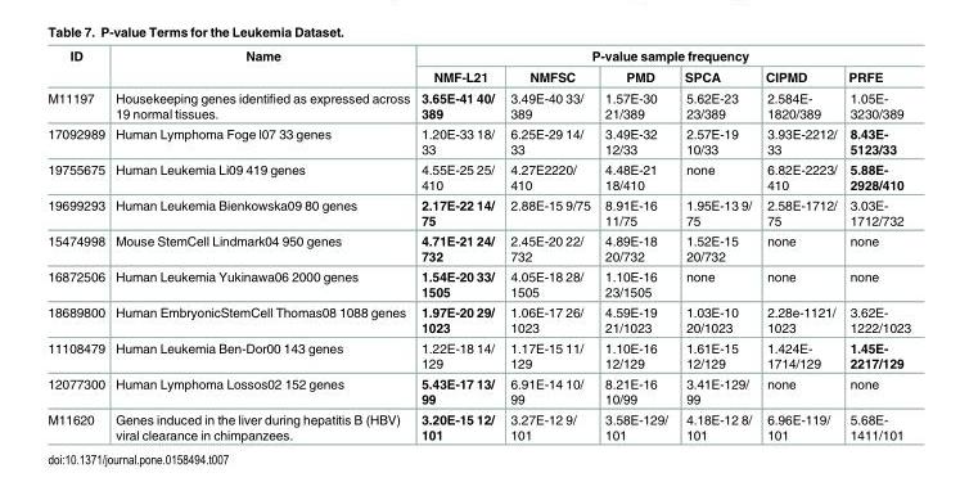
<table><thead><tr><td rowspan="2">ID</td><td rowspan="2">Name</td><td colspan="6">P-value sample frequency</td></tr><tr><td>NMF-L21</td><td>NMFSC</td><td>PMD</td><td>SPCA</td><td>CIPMD</td><td>PRFE</td></tr></thead><tbody><tr><td>M11197</td><td>Housekeeping genes identified as expressed across 19 normal tissues.</td><td>3.65E-41 40/ 389</td><td>3.49E-40 33/ 389</td><td>1.57E-30 21/389</td><td>5.62E-23 23/389</td><td>2.584E- 1820/389</td><td>1.05E- 3230/389</td></tr><tr><td>17092989</td><td>Human Lymphoma Foge l07 33 genes</td><td>1.20E-33 18/ 33</td><td>6.25E-29 14/ 33</td><td>3.49E-32 12/33</td><td>2.57E-19 10/33</td><td>3.93E-2212/ 33</td><td>8.43E- 5123/33</td></tr><tr><td>19755675</td><td>Human Leukemia Li09 419 genes</td><td>4.55E-25 25/ 410</td><td>4.27E2220/ 410</td><td>4.48E-21 18/410</td><td>none</td><td>6.82E-2223/ 410</td><td>5.88E- 2928/410</td></tr><tr><td>19699293</td><td>Human Leukemia Bienkowska09 80 genes</td><td>2.17E-22 14/ 75</td><td>2.88E-15 9/75</td><td>8.91E-16 11/75</td><td>1.95E-13 9/ 75</td><td>2.58E-1712/ 75</td><td>3.03E- 1712/732</td></tr><tr><td>15474998</td><td>Mouse StemCell Lindmark04 950 genes</td><td>4.71E-21 24/ 732</td><td>2.45E-20 22/ 732</td><td>4.89E-18 20/732</td><td>1.52E-15 20/732</td><td>none</td><td>none</td></tr><tr><td>16872506</td><td>Human Leukemia Yukinawa06 2000 genes</td><td>1.54E-20 33/ 1505</td><td>4.05E-18 28/ 1505</td><td>1.10E-16 23/1505</td><td>none</td><td>none</td><td>none</td></tr><tr><td>18689800</td><td>Human EmbryonicStemCell Thomas08 1088 genes</td><td>1.97E-20 29/ 1023</td><td>1.06E-17 26/ 1023</td><td>4.59E-19 21/1023</td><td>1.03E-10 20/1023</td><td>2.28e-1121/ 1023</td><td>3.62E- 1222/1023</td></tr><tr><td>11108479</td><td>Human Leukemia Ben-Dor00 143 genes</td><td>1.22E-18 14/ 129</td><td>1.17E-15 11/ 129</td><td>1.10E-16 12/129</td><td>1.61E-15 12/129</td><td>1.424E- 1714/129</td><td>1.45E- 2217/129</td></tr><tr><td>12077300</td><td>Human Lymphoma Lossos02 152 genes</td><td>5.43E-17 13/ 99</td><td>6.91E-14 10/ 99</td><td>8.21E-16 10/99</td><td>3.41E-129/ 99</td><td>none</td><td>none</td></tr><tr><td>M11620</td><td>Genes induced in the liver during hepatitis B (HBV) viral clearance in chimpanzees.</td><td>3.20E-15 12/ 101</td><td>3.27E-12 9/ 101</td><td>3.58E-129/ 101</td><td>4.18E-12 8/ 101</td><td>6.96E-119/ 101</td><td>5.68E- 1411/101</td></tr></tbody></table>